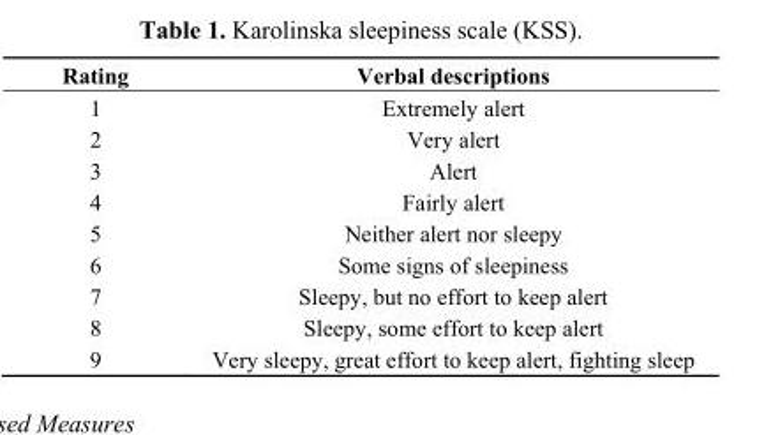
<table><thead><tr><td>Rating</td><td>Verbal descriptions</td></tr></thead><tbody><tr><td>1</td><td>Extremely alert</td></tr><tr><td>2</td><td>Very alert</td></tr><tr><td>3</td><td>Alert</td></tr><tr><td>4</td><td>Fairly alert</td></tr><tr><td>5</td><td>Neither alert nor sleepy</td></tr><tr><td>6</td><td>Some signs of sleepiness</td></tr><tr><td>7</td><td>Sleepy, but no effort to keep alert</td></tr><tr><td>8</td><td>Sleepy, some effort to keep alert</td></tr><tr><td>9</td><td>Very sleepy, great effort to keep alert, fighting sleep</td></tr></tbody></table>